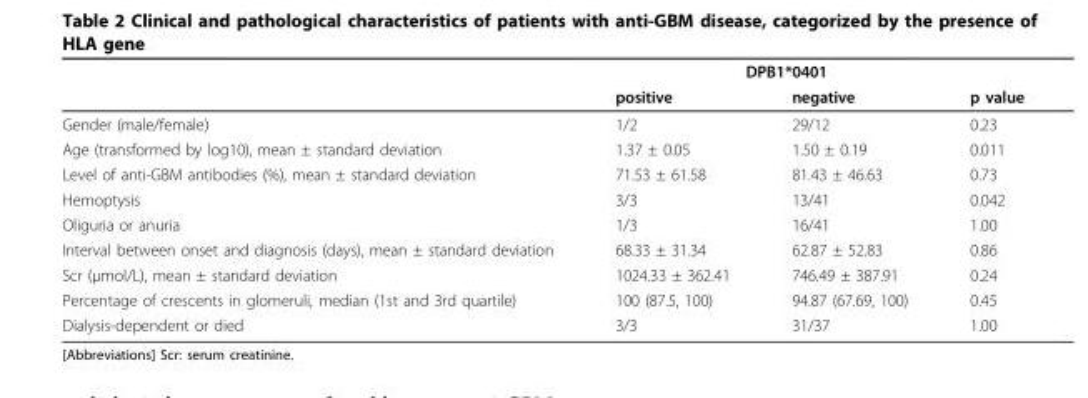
<table><thead><tr><td rowspan="2"></td><td colspan="2">DPB1*0401</td><td rowspan="2">p value</td></tr><tr><td>positive</td><td>negative</td></tr></thead><tbody><tr><td>Gender (male/female)</td><td>1/2</td><td>29/12</td><td>0.23</td></tr><tr><td>Age (transformed by log10), mean ± standard deviation</td><td>1.37 ± 0.05</td><td>1.50 ± 0.19</td><td>0.011</td></tr><tr><td>Level of anti-GBM antibodies (%), mean ± standard deviation</td><td>71.53 ± 61.58</td><td>81.43 ± 46.63</td><td>0.73</td></tr><tr><td>Hemoptysis</td><td>3/3</td><td>13/41</td><td>0.042</td></tr><tr><td>Oliguria or anuria</td><td>1/3</td><td>16/41</td><td>1.00</td></tr><tr><td>Interval between onset and diagnosis (days), mean ± standard deviation</td><td>68.33 ± 31.34</td><td>62.87 ± 52.83</td><td>0.86</td></tr><tr><td>Scr (μmol/L), mean ± standard deviation</td><td>1024.33 ± 362.41</td><td>746.49 ± 387.91</td><td>0.24</td></tr><tr><td>Percentage of crescents in glomeruli, median (1st and 3rd quartile)</td><td>100 (87.5, 100)</td><td>94.87 (67.69, 100)</td><td>0.45</td></tr><tr><td>Dialysis-dependent or died</td><td>3/3</td><td>31/37</td><td>1.00</td></tr></tbody></table>